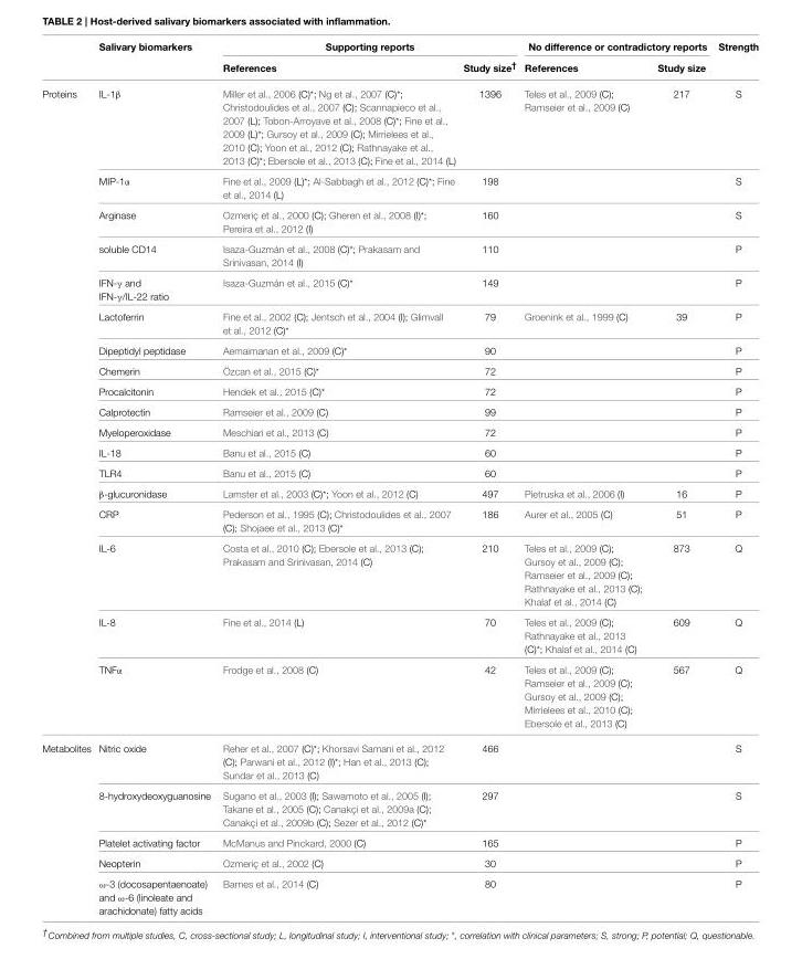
<table><thead><tr><td rowspan="2"></td><td rowspan="2">Salivary biomarkers</td><td colspan="2">Supporting reports</td><td colspan="2">No difference or contradictory reports</td><td rowspan="2">Strength</td></tr><tr><td>References</td><td>Study size<sup>†</sup></td><td>References</td><td>Study size</td></tr></thead><tbody><tr><td rowspan="18">Proteins</td><td>IL-1β</td><td>Miller et al., 2006 (C)*; Ng et al., 2007 (C)*; Christodoulides et al., 2007 (C); Scannapieco et al., 2007 (L); Tobon-Arroyave et al., 2008 (C)*; Fine et al., 2009 (L)*; Gursoy et al., 2009 (C); Mirrielees et al., 2010 (C); Yoon et al., 2012 (C); Rathnayake et al., 2013 (C)*; Ebersole et al., 2013 (C); Fine et al., 2014 (L)</td><td>1396</td><td>Teles et al., 2009 (C); Ramseier et al., 2009 (C)</td><td>217</td><td>S</td></tr><tr><td>MIP-1α</td><td>Fine et al., 2009 (L)*; Al-Sabbagh et al., 2012 (C)*; Fine et al., 2014 (L)</td><td>198</td><td></td><td></td><td>S</td></tr><tr><td>Arginase</td><td>Ozmeriç et al., 2000 (C); Gheren et al., 2008 (I)*; Pereira et al., 2012 (I)</td><td>160</td><td></td><td></td><td>S</td></tr><tr><td>soluble CD14</td><td>Isaza-Guzmán et al., 2008 (C)*; Prakasam and Srinivasan, 2014 (I)</td><td>110</td><td></td><td></td><td>P</td></tr><tr><td>IFN-γ and IFN-γ/IL-22 ratio</td><td>Isaza-Guzmán et al., 2015 (C)*</td><td>149</td><td></td><td></td><td>P</td></tr><tr><td>Lactoferrin</td><td>Fine et al., 2002 (C); Jentsch et al., 2004 (I); Glimvall et al., 2012 (C)*</td><td>79</td><td>Groenink et al., 1999 (C)</td><td>39</td><td>P</td></tr><tr><td>Dipeptidyl peptidase</td><td>Aemaimanan et al., 2009 (C)*</td><td>90</td><td></td><td></td><td>P</td></tr><tr><td>Chemerin</td><td>Özcan et al., 2015 (C)*</td><td>72</td><td></td><td></td><td>P</td></tr><tr><td>Procalcitonin</td><td>Hendek et al., 2015 (C)*</td><td>72</td><td></td><td></td><td>P</td></tr><tr><td>Calprotectin</td><td>Ramseier et al., 2009 (C)</td><td>99</td><td></td><td></td><td>P</td></tr><tr><td>Myeloperoxidase</td><td>Meschiari et al., 2013 (C)</td><td>72</td><td></td><td></td><td>P</td></tr><tr><td>IL-18</td><td>Banu et al., 2015 (C)</td><td>60</td><td></td><td></td><td>P</td></tr><tr><td>TLR4</td><td>Banu et al., 2015 (C)</td><td>60</td><td></td><td></td><td>P</td></tr><tr><td>β-glucuronidase</td><td>Lamster et al., 2003 (C)*; Yoon et al., 2012 (C)</td><td>497</td><td>Pietruska et al., 2006 (I)</td><td>16</td><td>P</td></tr><tr><td>CRP</td><td>Pederson et al., 1995 (C); Christodoulides et al., 2007 (C); Shojaee et al., 2013 (C)*</td><td>186</td><td>Aurer et al., 2005 (C)</td><td>51</td><td>P</td></tr><tr><td>IL-6</td><td>Costa et al., 2010 (C); Ebersole et al., 2013 (C); Prakasam and Srinivasan, 2014 (C)</td><td>210</td><td>Teles et al., 2009 (C); Gursoy et al., 2009 (C); Ramseier et al., 2009 (C); Rathnayake et al., 2013 (C); Khalaf et al., 2014 (C)</td><td>873</td><td>Q</td></tr><tr><td>IL-8</td><td>Fine et al., 2014 (L)</td><td>70</td><td>Teles et al., 2009 (C); Rathnayake et al., 2013 (C)*; Khalaf et al., 2014 (C)</td><td>609</td><td>Q</td></tr><tr><td>TNFα</td><td>Frodge et al., 2008 (C)</td><td>42</td><td>Teles et al., 2009 (C); Ramseier et al., 2009 (C); Gursoy et al., 2009 (C); Mirrielees et al., 2010 (C); Ebersole et al., 2013 (C)</td><td>567</td><td>Q</td></tr><tr><td rowspan="5">Metabolites</td><td>Nitric oxide</td><td>Reher et al., 2007 (C)*; Khorsavi Samani et al., 2012 (C); Parwani et al., 2012 (I)*; Han et al., 2013 (C); Sundar et al., 2013 (C)</td><td>466</td><td></td><td></td><td>S</td></tr><tr><td>8-hydroxydeoxyguanosine</td><td>Sugano et al., 2003 (I); Sawamoto et al., 2005 (I); Takane et al., 2005 (C); Canakçi et al., 2009a (C); Canakçi et al., 2009b (C); Sezer et al., 2012 (C)*</td><td>297</td><td></td><td></td><td>S</td></tr><tr><td>Platelet activating factor</td><td>McManus and Pinckard, 2000 (C)</td><td>165</td><td></td><td></td><td>P</td></tr><tr><td>Neopterin</td><td>Ozmeriç et al., 2002 (C)</td><td>30</td><td></td><td></td><td>P</td></tr><tr><td>ω-3 (docosapentaenoate) and ω-6 (linoleate and arachidonate) fatty acids</td><td>Barnes et al., 2014 (C)</td><td>80</td><td></td><td></td><td>P</td></tr></tbody></table>